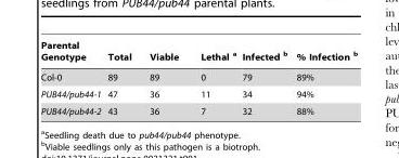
<table><thead><tr><td>Parental Genotype</td><td>Total</td><td>Viable</td><td>Lethal a</td><td>Infected b</td><td>% Infection b</td></tr></thead><tbody><tr><td>Col-0</td><td>89</td><td>89</td><td>0</td><td>79</td><td>89%</td></tr><tr><td>PUB44/pub44-1</td><td>47</td><td>36</td><td>11</td><td>34</td><td>94%</td></tr><tr><td>PUB44/pub44-2</td><td>43</td><td>36</td><td>7</td><td>32</td><td>88%</td></tr></tbody></table>